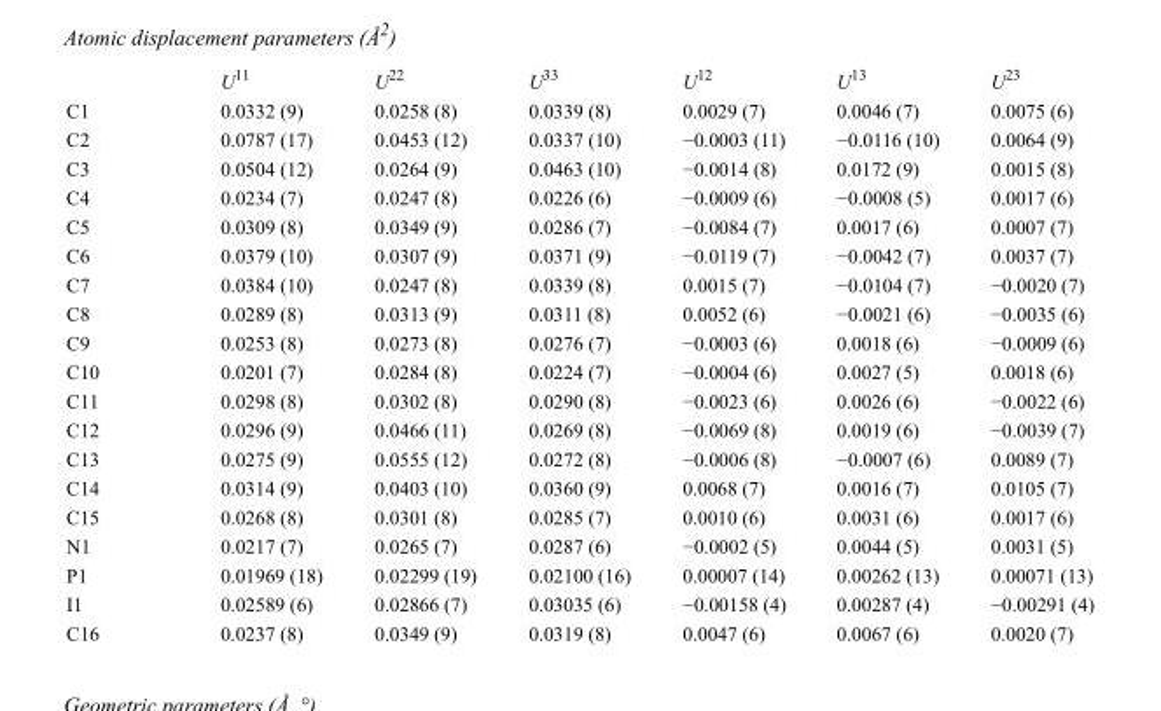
<table><thead><tr><td></td><td>U<sup>11</sup></td><td>U<sup>22</sup></td><td>U<sup>33</sup></td><td>U<sup>12</sup></td><td>U<sup>13</sup></td><td>U<sup>23</sup></td></tr></thead><tbody><tr><td>C1</td><td>0.0332 (9)</td><td>0.0258 (8)</td><td>0.0339 (8)</td><td>0.0029 (7)</td><td>0.0046 (7)</td><td>0.0075 (6)</td></tr><tr><td>C2</td><td>0.0787 (17)</td><td>0.0453 (12)</td><td>0.0337 (10)</td><td>−0.0003 (11)</td><td>−0.0116 (10)</td><td>0.0064 (9)</td></tr><tr><td>C3</td><td>0.0504 (12)</td><td>0.0264 (9)</td><td>0.0463 (10)</td><td>−0.0014 (8)</td><td>0.0172 (9)</td><td>0.0015 (8)</td></tr><tr><td>C4</td><td>0.0234 (7)</td><td>0.0247 (8)</td><td>0.0226 (6)</td><td>−0.0009 (6)</td><td>−0.0008 (5)</td><td>0.0017 (6)</td></tr><tr><td>C5</td><td>0.0309 (8)</td><td>0.0349 (9)</td><td>0.0286 (7)</td><td>−0.0084 (7)</td><td>0.0017 (6)</td><td>0.0007 (7)</td></tr><tr><td>C6</td><td>0.0379 (10)</td><td>0.0307 (9)</td><td>0.0371 (9)</td><td>−0.0119 (7)</td><td>−0.0042 (7)</td><td>0.0037 (7)</td></tr><tr><td>C7</td><td>0.0384 (10)</td><td>0.0247 (8)</td><td>0.0339 (8)</td><td>0.0015 (7)</td><td>−0.0104 (7)</td><td>−0.0020 (7)</td></tr><tr><td>C8</td><td>0.0289 (8)</td><td>0.0313 (9)</td><td>0.0311 (8)</td><td>0.0052 (6)</td><td>−0.0021 (6)</td><td>−0.0035 (6)</td></tr><tr><td>C9</td><td>0.0253 (8)</td><td>0.0273 (8)</td><td>0.0276 (7)</td><td>−0.0003 (6)</td><td>0.0018 (6)</td><td>−0.0009 (6)</td></tr><tr><td>C10</td><td>0.0201 (7)</td><td>0.0284 (8)</td><td>0.0224 (7)</td><td>−0.0004 (6)</td><td>0.0027 (5)</td><td>0.0018 (6)</td></tr><tr><td>C11</td><td>0.0298 (8)</td><td>0.0302 (8)</td><td>0.0290 (8)</td><td>−0.0023 (6)</td><td>0.0026 (6)</td><td>−0.0022 (6)</td></tr><tr><td>C12</td><td>0.0296 (9)</td><td>0.0466 (11)</td><td>0.0269 (8)</td><td>−0.0069 (8)</td><td>0.0019 (6)</td><td>−0.0039 (7)</td></tr><tr><td>C13</td><td>0.0275 (9)</td><td>0.0555 (12)</td><td>0.0272 (8)</td><td>−0.0006 (8)</td><td>−0.0007 (6)</td><td>0.0089 (7)</td></tr><tr><td>C14</td><td>0.0314 (9)</td><td>0.0403 (10)</td><td>0.0360 (9)</td><td>0.0068 (7)</td><td>0.0016 (7)</td><td>0.0105 (7)</td></tr><tr><td>C15</td><td>0.0268 (8)</td><td>0.0301 (8)</td><td>0.0285 (7)</td><td>0.0010 (6)</td><td>0.0031 (6)</td><td>0.0017 (6)</td></tr><tr><td>N1</td><td>0.0217 (7)</td><td>0.0265 (7)</td><td>0.0287 (6)</td><td>−0.0002 (5)</td><td>0.0044 (5)</td><td>0.0031 (5)</td></tr><tr><td>P1</td><td>0.01969 (18)</td><td>0.02299 (19)</td><td>0.02100 (16)</td><td>0.00007 (14)</td><td>0.00262 (13)</td><td>0.00071 (13)</td></tr><tr><td>I1</td><td>0.02589 (6)</td><td>0.02866 (7)</td><td>0.03035 (6)</td><td>−0.00158 (4)</td><td>0.00287 (4)</td><td>−0.00291 (4)</td></tr><tr><td>C16</td><td>0.0237 (8)</td><td>0.0349 (9)</td><td>0.0319 (8)</td><td>0.0047 (6)</td><td>0.0067 (6)</td><td>0.0020 (7)</td></tr></tbody></table>